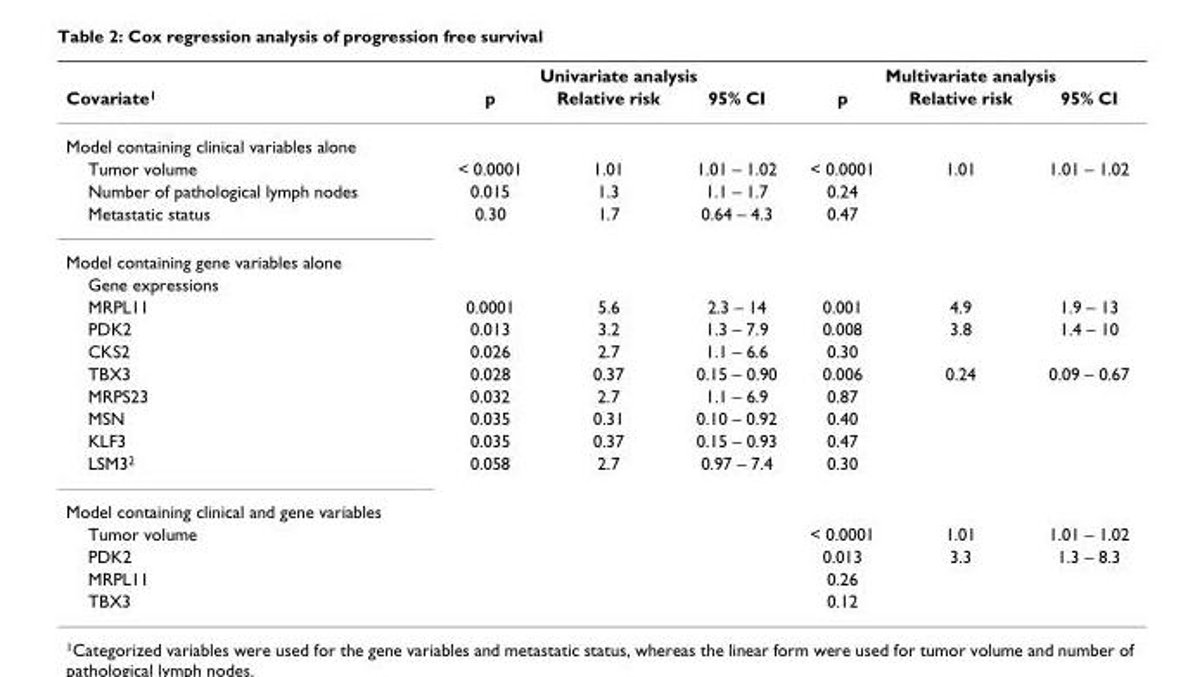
<table><thead><tr><td rowspan="2">Covariate1</td><td colspan="3">Univariate analysis</td><td colspan="3">Multivariate analysis</td></tr><tr><td>p</td><td>Relative risk</td><td>95% CI</td><td>p</td><td>Relative risk</td><td>95% CI</td></tr></thead><tbody><tr><td colspan="7">Model containing clinical variables alone</td></tr><tr><td>Tumor volume</td><td>&lt; 0.0001</td><td>1.01</td><td>1.01 – 1.02</td><td>&lt; 0.0001</td><td>1.01</td><td>1.01 – 1.02</td></tr><tr><td>Number of pathological lymph nodes</td><td>0.015</td><td>1.3</td><td>1.1 – 1.7</td><td>0.24</td><td></td><td></td></tr><tr><td>Metastatic status</td><td>0.30</td><td>1.7</td><td>0.64 – 4.3</td><td>0.47</td><td></td><td></td></tr><tr><td colspan="7">Model containing gene variables alone</td></tr><tr><td colspan="7">Gene expressions</td></tr><tr><td>MRPL11</td><td>0.0001</td><td>5.6</td><td>2.3 – 14</td><td>0.001</td><td>4.9</td><td>1.9 – 13</td></tr><tr><td>PDK2</td><td>0.013</td><td>3.2</td><td>1.3 – 7.9</td><td>0.008</td><td>3.8</td><td>1.4 – 10</td></tr><tr><td>CKS2</td><td>0.026</td><td>2.7</td><td>1.1 – 6.6</td><td>0.30</td><td></td><td></td></tr><tr><td>TBX3</td><td>0.028</td><td>0.37</td><td>0.15 – 0.90</td><td>0.006</td><td>0.24</td><td>0.09 – 0.67</td></tr><tr><td>MRPS23</td><td>0.032</td><td>2.7</td><td>1.1 – 6.9</td><td>0.87</td><td></td><td></td></tr><tr><td>MSN</td><td>0.035</td><td>0.31</td><td>0.10 – 0.92</td><td>0.40</td><td></td><td></td></tr><tr><td>KLF3</td><td>0.035</td><td>0.37</td><td>0.15 – 0.93</td><td>0.47</td><td></td><td></td></tr><tr><td>LSM32</td><td>0.058</td><td>2.7</td><td>0.97 – 7.4</td><td>0.30</td><td></td><td></td></tr><tr><td colspan="7">Model containing clinical and gene variables</td></tr><tr><td>Tumor volume</td><td></td><td></td><td></td><td>&lt; 0.0001</td><td>1.01</td><td>1.01 – 1.02</td></tr><tr><td>PDK2</td><td></td><td></td><td></td><td>0.013</td><td>3.3</td><td>1.3 – 8.3</td></tr><tr><td>MRPL11</td><td></td><td></td><td></td><td>0.26</td><td></td><td></td></tr><tr><td>TBX3</td><td></td><td></td><td></td><td>0.12</td><td></td><td></td></tr></tbody></table>